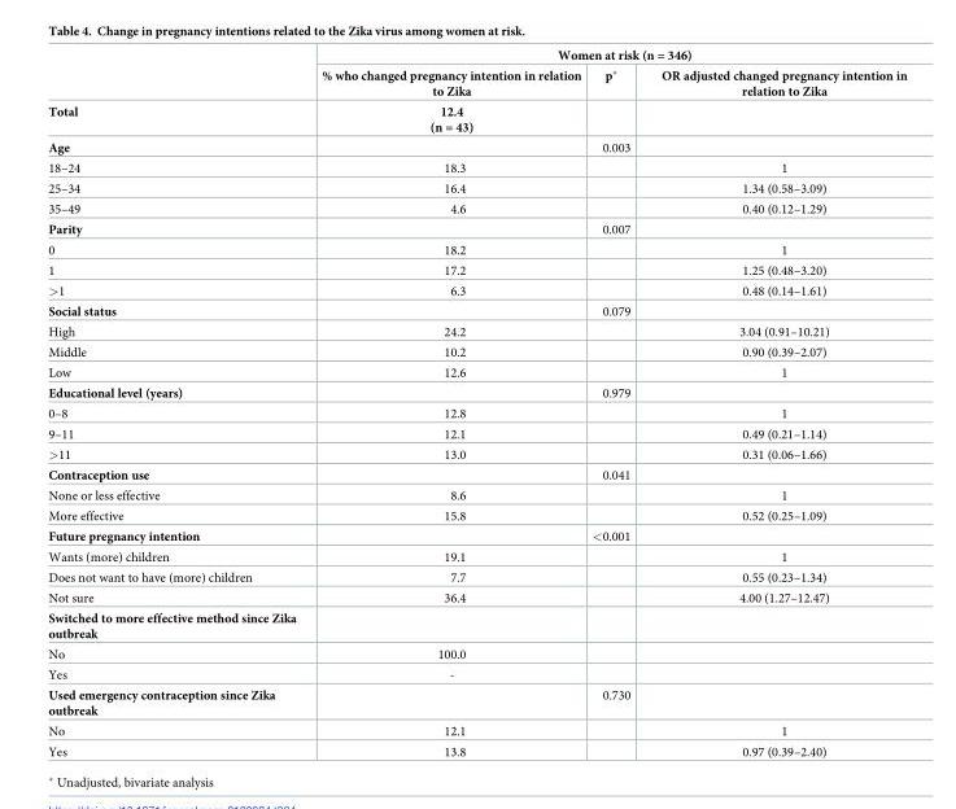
<table><thead><tr><td rowspan="3">Total</td><td colspan="3">Women at risk (n = 346)</td></tr><tr><td rowspan="2">% who changed pregnancy intention in relation to Zika 12.4 (n = 43)</td><td rowspan="2">p*</td><td rowspan="2">OR adjusted changed pregnancy intention in relation to Zika</td></tr><tr></tr></thead><tbody><tr><td>Age</td><td></td><td>0.003</td><td></td></tr><tr><td>18–24</td><td>18.3</td><td></td><td>1</td></tr><tr><td>25–34</td><td>16.4</td><td></td><td>1.34 (0.58–3.09)</td></tr><tr><td>35–49</td><td>4.6</td><td></td><td>0.40 (0.12–1.29)</td></tr><tr><td>Parity</td><td></td><td>0.007</td><td></td></tr><tr><td>0</td><td>18.2</td><td></td><td>1</td></tr><tr><td>1</td><td>17.2</td><td></td><td>1.25 (0.48–3.20)</td></tr><tr><td>&gt;1</td><td>6.3</td><td></td><td>0.48 (0.14–1.61)</td></tr><tr><td>Social status</td><td></td><td>0.079</td><td></td></tr><tr><td>High</td><td>24.2</td><td></td><td>3.04 (0.91–10.21)</td></tr><tr><td>Middle</td><td>10.2</td><td></td><td>0.90 (0.39–2.07)</td></tr><tr><td>Low</td><td>12.6</td><td></td><td>1</td></tr><tr><td>Educational level (years)</td><td></td><td>0.979</td><td></td></tr><tr><td>0–8</td><td>12.8</td><td></td><td>1</td></tr><tr><td>9–11</td><td>12.1</td><td></td><td>0.49 (0.21–1.14)</td></tr><tr><td>&gt;11</td><td>13.0</td><td></td><td>0.31 (0.06–1.66)</td></tr><tr><td>Contraception use</td><td></td><td>0.041</td><td></td></tr><tr><td>None or less effective</td><td>8.6</td><td></td><td>1</td></tr><tr><td>More effective</td><td>15.8</td><td></td><td>0.52 (0.25–1.09)</td></tr><tr><td>Future pregnancy intention</td><td></td><td>&lt;0.001</td><td></td></tr><tr><td>Wants (more) children</td><td>19.1</td><td></td><td>1</td></tr><tr><td>Does not want to have (more) children</td><td>7.7</td><td></td><td>0.55 (0.23–1.34)</td></tr><tr><td>Not sure</td><td>36.4</td><td></td><td>4.00 (1.27–12.47)</td></tr><tr><td colspan="4">Switched to more effective method since Zika outbreak</td></tr><tr><td>No</td><td>100.0</td><td></td><td></td></tr><tr><td>Yes</td><td>-</td><td></td><td></td></tr><tr><td>Used emergency contraception since Zika outbreak</td><td></td><td>0.730</td><td></td></tr><tr><td>No</td><td>12.1</td><td></td><td>1</td></tr><tr><td>Yes</td><td>13.8</td><td></td><td>0.97 (0.39–2.40)</td></tr></tbody></table>